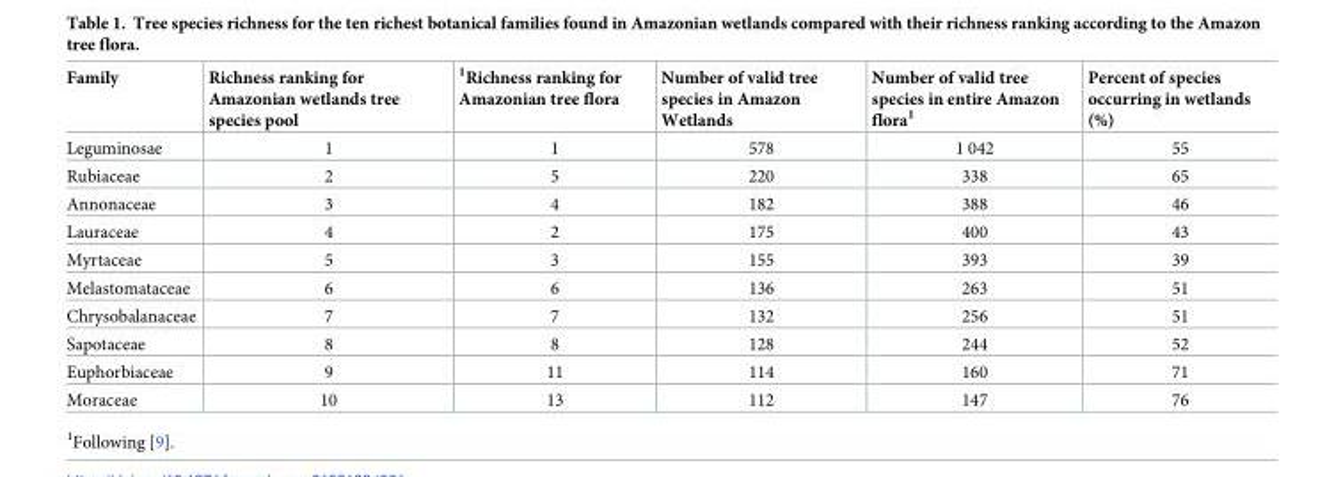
<table><thead><tr><td>Family</td><td>Richness ranking for Amazonian wetlands tree species pool</td><td><sup>1</sup>Richness ranking for Amazonian tree flora</td><td>Number of valid tree species in Amazon Wetlands</td><td>Number of valid tree species in entire Amazon flora<sup>1</sup></td><td>Percent of species occurring in wetlands (%)</td></tr></thead><tbody><tr><td>Leguminosae</td><td>1</td><td>1</td><td>578</td><td>1 042</td><td>55</td></tr><tr><td>Rubiaceae</td><td>2</td><td>5</td><td>220</td><td>338</td><td>65</td></tr><tr><td>Annonaceae</td><td>3</td><td>4</td><td>182</td><td>388</td><td>46</td></tr><tr><td>Lauraceae</td><td>4</td><td>2</td><td>175</td><td>400</td><td>43</td></tr><tr><td>Myrtaceae</td><td>5</td><td>3</td><td>155</td><td>393</td><td>39</td></tr><tr><td>Melastomataceae</td><td>6</td><td>6</td><td>136</td><td>263</td><td>51</td></tr><tr><td>Chrysobalanaceae</td><td>7</td><td>7</td><td>132</td><td>256</td><td>51</td></tr><tr><td>Sapotaceae</td><td>8</td><td>8</td><td>128</td><td>244</td><td>52</td></tr><tr><td>Euphorbiaceae</td><td>9</td><td>11</td><td>114</td><td>160</td><td>71</td></tr><tr><td>Moraceae</td><td>10</td><td>13</td><td>112</td><td>147</td><td>76</td></tr></tbody></table>